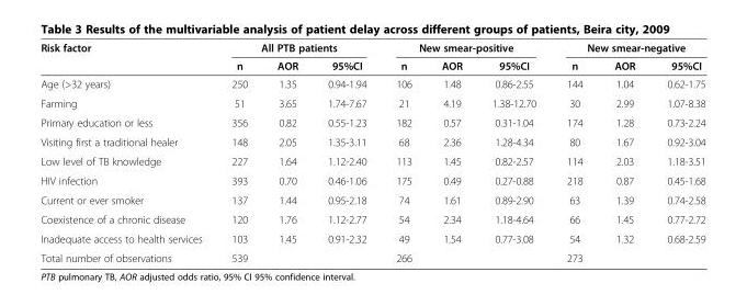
<table><thead><tr><td rowspan="2">Risk factor</td><td colspan="3">All PTB patients</td><td colspan="3">New smear-positive</td><td colspan="3">New smear-negative</td></tr><tr><td>n</td><td>AOR</td><td>95%CI</td><td>n</td><td>AOR</td><td>95%CI</td><td>n</td><td>AOR</td><td>95%CI</td></tr></thead><tbody><tr><td>Age (&gt;32 years)</td><td>250</td><td>1.35</td><td>0.94-1.94</td><td>106</td><td>1.48</td><td>0.86-2.55</td><td>144</td><td>1.04</td><td>0.62-1.75</td></tr><tr><td>Farming</td><td>51</td><td>3.65</td><td>1.74-7.67</td><td>21</td><td>4.19</td><td>1.38-12.70</td><td>30</td><td>2.99</td><td>1.07-8.38</td></tr><tr><td>Primary education or less</td><td>356</td><td>0.82</td><td>0.55-1.23</td><td>182</td><td>0.57</td><td>0.31-1.04</td><td>174</td><td>1.28</td><td>0.73-2.24</td></tr><tr><td>Visiting first a traditional healer</td><td>148</td><td>2.05</td><td>1.35-3.11</td><td>68</td><td>2.36</td><td>1.28-4.34</td><td>80</td><td>1.67</td><td>0.92-3.04</td></tr><tr><td>Low level of TB knowledge</td><td>227</td><td>1.64</td><td>1.12-2.40</td><td>113</td><td>1.45</td><td>0.82-2.57</td><td>114</td><td>2.03</td><td>1.18-3.51</td></tr><tr><td>HIV infection</td><td>393</td><td>0.70</td><td>0.46-1.06</td><td>175</td><td>0.49</td><td>0.27-0.88</td><td>218</td><td>0.87</td><td>0.45-1.68</td></tr><tr><td>Current or ever smoker</td><td>137</td><td>1.44</td><td>0.95-2.18</td><td>74</td><td>1.61</td><td>0.89-2.90</td><td>63</td><td>1.39</td><td>0.74-2.58</td></tr><tr><td>Coexistence of a chronic disease</td><td>120</td><td>1.76</td><td>1.12-2.77</td><td>54</td><td>2.34</td><td>1.18-4.64</td><td>66</td><td>1.45</td><td>0.77-2.72</td></tr><tr><td>Inadequate access to health services</td><td>103</td><td>1.45</td><td>0.91-2.32</td><td>49</td><td>1.54</td><td>0.77-3.08</td><td>54</td><td>1.32</td><td>0.68-2.59</td></tr><tr><td>Total number of observations</td><td>539</td><td></td><td></td><td>266</td><td></td><td></td><td>273</td><td></td><td></td></tr></tbody></table>